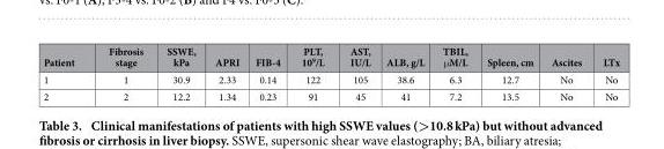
<table><thead><tr><td>Patient</td><td>Fibrosis stage</td><td>SSWE, kPa</td><td>APRI</td><td>FIB-4</td><td>PLT, 10<sup>9</sup>/L</td><td>AST, IU/L</td><td>ALB, g/L</td><td>TBIL, μ M/L</td><td>Spleen, cm</td><td>Ascites</td><td>LTx</td></tr></thead><tbody><tr><td>1</td><td>1</td><td>30.9</td><td>2.33</td><td>0.14</td><td>122</td><td>105</td><td>38.6</td><td>6.3</td><td>12.7</td><td>No</td><td>No</td></tr><tr><td>2</td><td>2</td><td>12.2</td><td>1.34</td><td>0.23</td><td>91</td><td>45</td><td>41</td><td>7.2</td><td>13.5</td><td>No</td><td>No</td></tr></tbody></table>